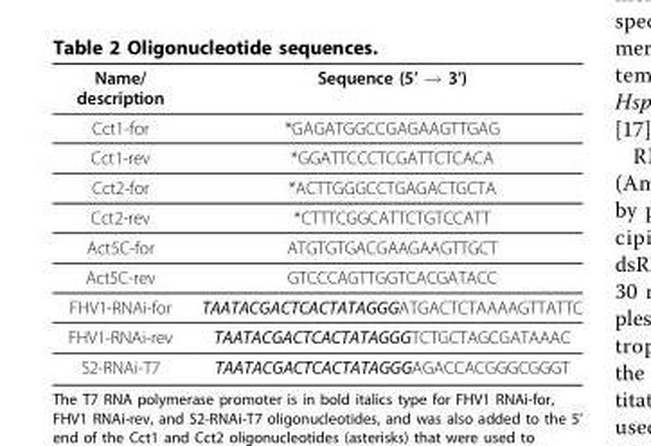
<table><thead><tr><td>Name/ description</td><td>Sequence (5’ → 3’)</td></tr></thead><tbody><tr><td>Cct1-for</td><td>*GAGATGGCCGAGAAGTTGAG</td></tr><tr><td>Cct1-rev</td><td>*GGATTCCCTCGATTCTCACA</td></tr><tr><td>Cct2-for</td><td>*ACTTGGGCCTGAGACTGCTA</td></tr><tr><td>Cct2-rev</td><td>*CTTTCGGCATTCTGTCCATT</td></tr><tr><td>Act5C-for</td><td>ATGTGTGACGAAGAAGTTGCT</td></tr><tr><td>Act5C-rev</td><td>GTCCCAGTTGGTCACGATACC</td></tr><tr><td>FHV1-RNAi-for</td><td>TAATACGACTCACTATAGGGATGACTCTAAAAGTTATTC</td></tr><tr><td>FHV1-RNAi-rev</td><td>TAATACGACTCACTATAGGGTCTGCTAGCGATAAAC</td></tr><tr><td>S2-RNAi-T7</td><td>TAATACGACTCACTATAGGGAGACCACGGGCGGGT</td></tr></tbody></table>